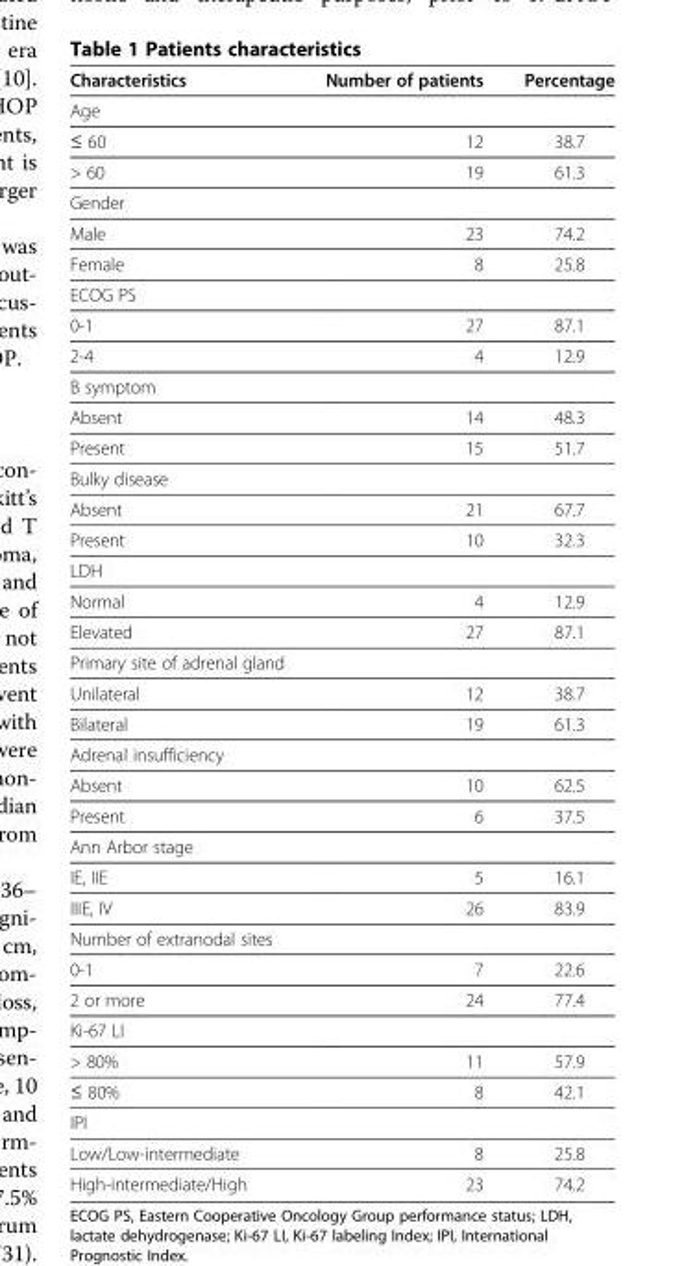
<table><thead><tr><td>Characteristics</td><td>Number of patients</td><td>Percentage</td></tr></thead><tbody><tr><td colspan="3">Age</td></tr><tr><td>≤ 60</td><td>12</td><td>38.7</td></tr><tr><td>&gt; 60</td><td>19</td><td>61.3</td></tr><tr><td colspan="3">Gender</td></tr><tr><td>Male</td><td>23</td><td>74.2</td></tr><tr><td>Female</td><td>8</td><td>25.8</td></tr><tr><td colspan="3">ECOG PS</td></tr><tr><td>0-1</td><td>27</td><td>87.1</td></tr><tr><td>2-4</td><td>4</td><td>12.9</td></tr><tr><td colspan="3">B symptom</td></tr><tr><td>Absent</td><td>14</td><td>48.3</td></tr><tr><td>Present</td><td>15</td><td>51.7</td></tr><tr><td colspan="3">Bulky disease</td></tr><tr><td>Absent</td><td>21</td><td>67.7</td></tr><tr><td>Present</td><td>10</td><td>32.3</td></tr><tr><td colspan="3">LDH</td></tr><tr><td>Normal</td><td>4</td><td>12.9</td></tr><tr><td>Elevated</td><td>27</td><td>87.1</td></tr><tr><td colspan="3">Primary site of adrenal gland</td></tr><tr><td>Unilateral</td><td>12</td><td>38.7</td></tr><tr><td>Bilateral</td><td>19</td><td>61.3</td></tr><tr><td colspan="3">Adrenal insufficiency</td></tr><tr><td>Absent</td><td>10</td><td>62.5</td></tr><tr><td>Present</td><td>6</td><td>37.5</td></tr><tr><td colspan="3">Ann Arbor stage</td></tr><tr><td>IE, IIE</td><td>5</td><td>16.1</td></tr><tr><td>IIIE, IV</td><td>26</td><td>83.9</td></tr><tr><td colspan="3">Number of extranodal sites</td></tr><tr><td>0-1</td><td>7</td><td>22.6</td></tr><tr><td>2 or more</td><td>24</td><td>77.4</td></tr><tr><td colspan="3">Ki-67 LI</td></tr><tr><td>&gt; 80%</td><td>11</td><td>57.9</td></tr><tr><td>≤ 80%</td><td>8</td><td>42.1</td></tr><tr><td colspan="3">IPI</td></tr><tr><td>Low/Low-intermediate</td><td>8</td><td>25.8</td></tr><tr><td>High-intermediate/High</td><td>23</td><td>74.2</td></tr></tbody></table>